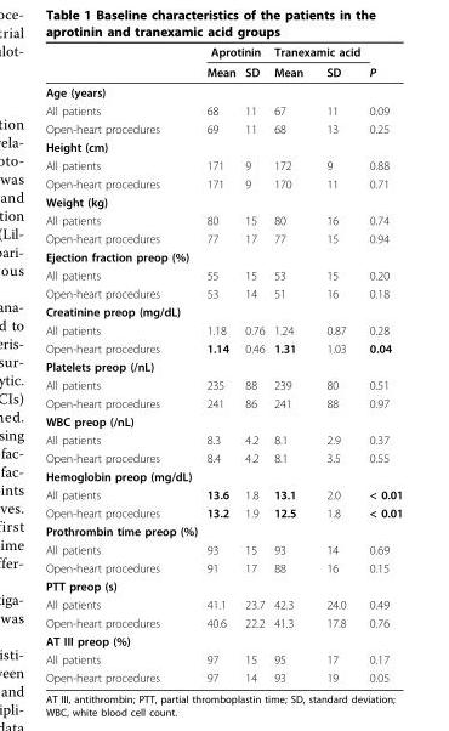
<table><thead><tr><td rowspan="2"></td><td colspan="2">Aprotinin</td><td colspan="2">Tranexamic acid</td><td rowspan="2">P</td></tr><tr><td>Mean</td><td>SD</td><td>Mean</td><td>SD</td></tr></thead><tbody><tr><td colspan="6">Age (years)</td></tr><tr><td>All patients</td><td>68</td><td>11</td><td>67</td><td>11</td><td>0.09</td></tr><tr><td>Open-heart procedures</td><td>69</td><td>11</td><td>68</td><td>13</td><td>0.25</td></tr><tr><td colspan="6">Height (cm)</td></tr><tr><td>All patients</td><td>171</td><td>9</td><td>172</td><td>9</td><td>0.88</td></tr><tr><td>Open-heart procedures</td><td>171</td><td>9</td><td>170</td><td>11</td><td>0.71</td></tr><tr><td colspan="6">Weight (kg)</td></tr><tr><td>All patients</td><td>80</td><td>15</td><td>80</td><td>16</td><td>0.74</td></tr><tr><td>Open-heart procedures</td><td>77</td><td>17</td><td>77</td><td>15</td><td>0.94</td></tr><tr><td colspan="6">Ejection fraction preop (%)</td></tr><tr><td>All patients</td><td>55</td><td>15</td><td>53</td><td>15</td><td>0.20</td></tr><tr><td>Open-heart procedures</td><td>53</td><td>14</td><td>51</td><td>16</td><td>0.18</td></tr><tr><td colspan="6">Creatinine preop (mg/dL)</td></tr><tr><td>All patients</td><td>1.18</td><td>0.76</td><td>1.24</td><td>0.87</td><td>0.28</td></tr><tr><td>Open-heart procedures</td><td>1.14</td><td>0.46</td><td>1.31</td><td>1.03</td><td>0.04</td></tr><tr><td colspan="6">Platelets preop (/nL)</td></tr><tr><td>All patients</td><td>235</td><td>88</td><td>239</td><td>80</td><td>0.51</td></tr><tr><td>Open-heart procedures</td><td>241</td><td>86</td><td>241</td><td>88</td><td>0.97</td></tr><tr><td colspan="6">WBC preop (/nL)</td></tr><tr><td>All patients</td><td>8.3</td><td>4.2</td><td>8.1</td><td>2.9</td><td>0.37</td></tr><tr><td>Open-heart procedures</td><td>8.4</td><td>4.2</td><td>8.1</td><td>3.5</td><td>0.55</td></tr><tr><td colspan="6">Hemoglobin preop (mg/dL)</td></tr><tr><td>All patients</td><td>13.6</td><td>1.8</td><td>13.1</td><td>2.0</td><td>&lt; 0.01</td></tr><tr><td>Open-heart procedures</td><td>13.2</td><td>1.9</td><td>12.5</td><td>1.8</td><td>&lt; 0.01</td></tr><tr><td colspan="6">Prothrombin time preop (%)</td></tr><tr><td>All patients</td><td>93</td><td>15</td><td>93</td><td>14</td><td>0.69</td></tr><tr><td>Open-heart procedures</td><td>91</td><td>17</td><td>88</td><td>16</td><td>0.15</td></tr><tr><td colspan="6">PTT preop (s)</td></tr><tr><td>All patients</td><td>41.1</td><td>23.7</td><td>42.3</td><td>24.0</td><td>0.49</td></tr><tr><td>Open-heart procedures</td><td>40.6</td><td>22.2</td><td>41.3</td><td>17.8</td><td>0.76</td></tr><tr><td colspan="6">AT III preop (%)</td></tr><tr><td>All patients</td><td>97</td><td>15</td><td>95</td><td>17</td><td>0.17</td></tr><tr><td>Open-heart procedures</td><td>97</td><td>14</td><td>93</td><td>19</td><td>0.05</td></tr></tbody></table>